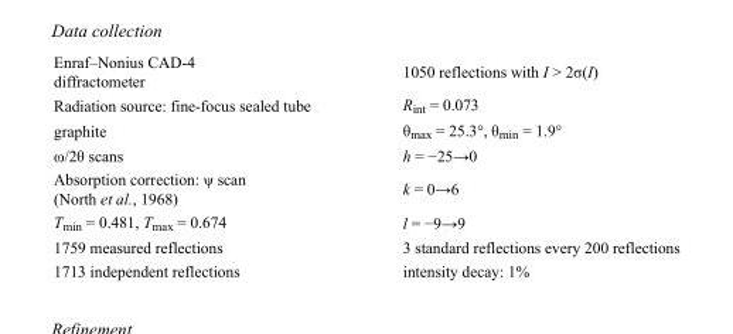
<table><tbody><tr><td>Enraf–Nonius CAD-4 diffractometer</td><td>1050 reflections with I &gt; 2σ(I)</td></tr><tr><td>Radiation source: fine-focus sealed tube</td><td>R<sub>int</sub> = 0.073</td></tr><tr><td>graphite</td><td>θ<sub>max</sub> = 25.3°, θ<sub>min</sub> = 1.9°</td></tr><tr><td>ω/2θ scans</td><td>h = −25→0</td></tr><tr><td>Absorption correction: ψ scan (North et al., 1968)</td><td>k = 0→6</td></tr><tr><td>T<sub>min</sub> = 0.481, T<sub>max</sub> = 0.674</td><td>l = −9→9</td></tr><tr><td>1759 measured reflections</td><td>3 standard reflections every 200 reflections</td></tr><tr><td>1713 independent reflections</td><td>intensity decay: 1%</td></tr></tbody></table>